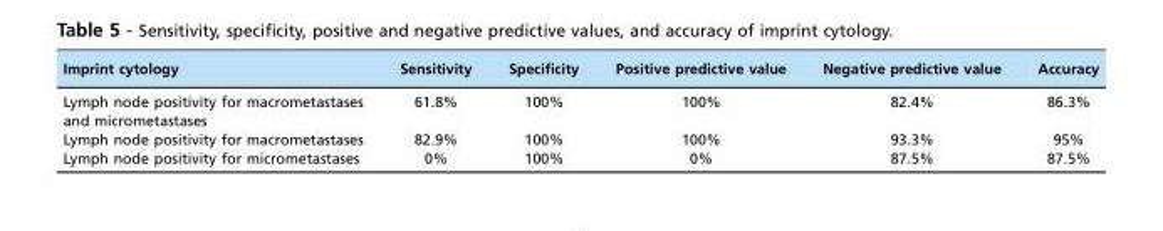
<table><thead><tr><td>Imprint cytology</td><td>Sensitivity</td><td>Specificity</td><td>Positive predictive value</td><td>Negative predictive value</td><td>Accuracy</td></tr></thead><tbody><tr><td>Lymph node positivity for macrometastases and micrometastases</td><td>61.8%</td><td>100%</td><td>100%</td><td>82.4%</td><td>86.3%</td></tr><tr><td>Lymph node positivity for macrometastases</td><td>82.9%</td><td>100%</td><td>100%</td><td>93.3%</td><td>95%</td></tr><tr><td>Lymph node positivity for micrometastases</td><td>0%</td><td>100%</td><td>0%</td><td>87.5%</td><td>87.5%</td></tr></tbody></table>